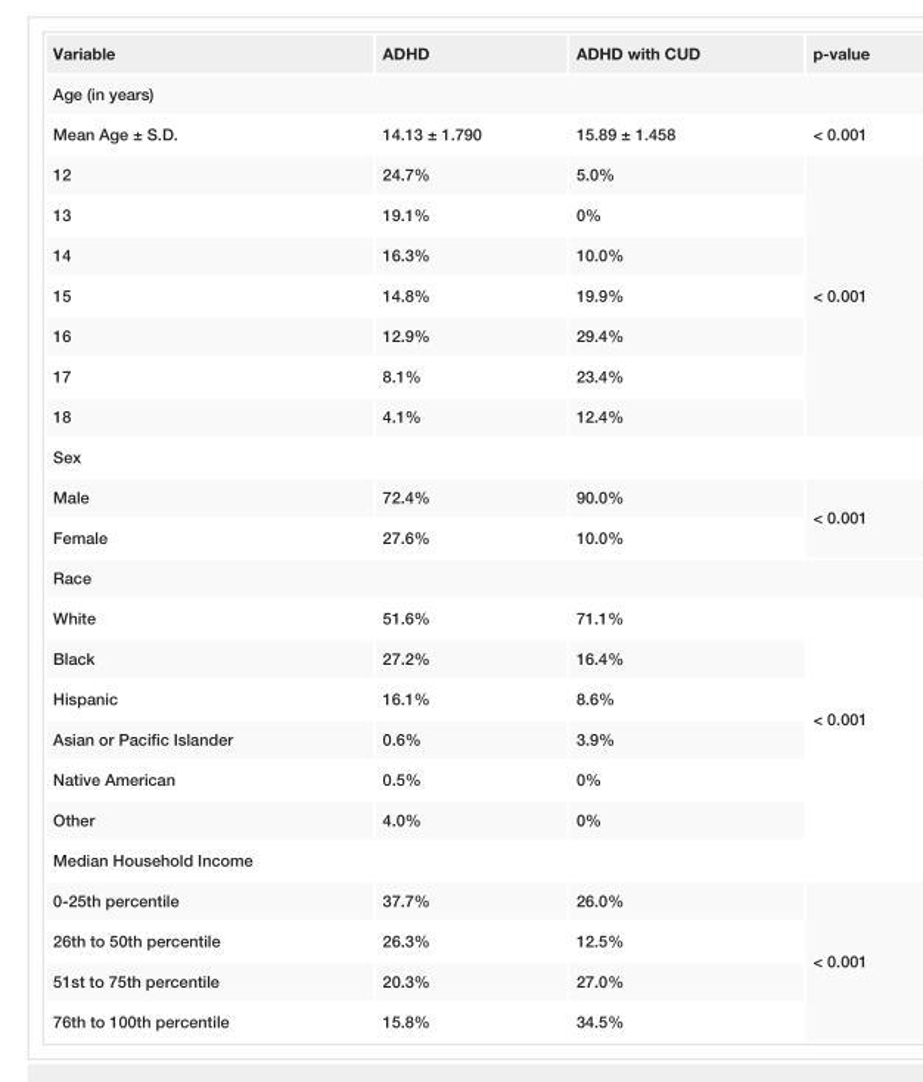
<table><tbody><tr><td>Variable</td><td>ADHD</td><td>ADHD with CUD</td><td>p-value</td></tr><tr><td colspan="4">Age (in years)</td></tr><tr><td>Mean Age ± S.D.</td><td>14.13 ± 1.790</td><td>15.89 ± 1.458</td><td>&lt; 0.001</td></tr><tr><td>12</td><td>24.7%</td><td>5.0%</td><td rowspan="7">&lt; 0.001</td></tr><tr><td>13</td><td>19.1%</td><td>0%</td></tr><tr><td>14</td><td>16.3%</td><td>10.0%</td></tr><tr><td>15</td><td>14.8%</td><td>19.9%</td></tr><tr><td>16</td><td>12.9%</td><td>29.4%</td></tr><tr><td>17</td><td>8.1%</td><td>23.4%</td></tr><tr><td>18</td><td>4.1%</td><td>12.4%</td></tr><tr><td colspan="4">Sex</td></tr><tr><td>Male</td><td>72.4%</td><td>90.0%</td><td rowspan="2">&lt; 0.001</td></tr><tr><td>Female</td><td>27.6%</td><td>10.0%</td></tr><tr><td colspan="4">Race</td></tr><tr><td>White</td><td>51.6%</td><td>71.1%</td><td rowspan="6">&lt; 0.001</td></tr><tr><td>Black</td><td>27.2%</td><td>16.4%</td></tr><tr><td>Hispanic</td><td>16.1%</td><td>8.6%</td></tr><tr><td>Asian or Pacific Islander</td><td>0.6%</td><td>3.9%</td></tr><tr><td>Native American</td><td>0.5%</td><td>0%</td></tr><tr><td>Other</td><td>4.0%</td><td>0%</td></tr><tr><td colspan="4">Median Household Income</td></tr><tr><td>0-25th percentile</td><td>37.7%</td><td>26.0%</td><td rowspan="4">&lt; 0.001</td></tr><tr><td>26th to 50th percentile</td><td>26.3%</td><td>12.5%</td></tr><tr><td>51st to 75th percentile</td><td>20.3%</td><td>27.0%</td></tr><tr><td>76th to 100th percentile</td><td>15.8%</td><td>34.5%</td></tr></tbody></table>